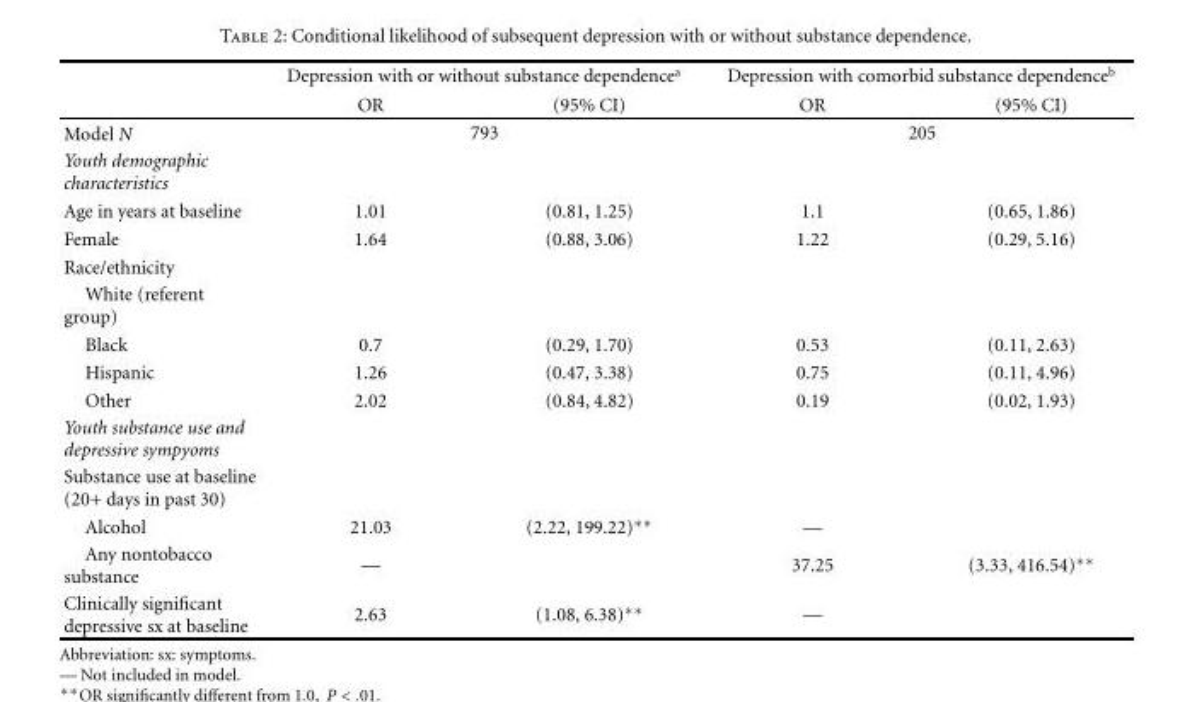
<table><thead><tr><td rowspan="2"></td><td colspan="2">Depression with or without substance dependence<sup>a</sup></td><td colspan="2">Depression with comorbid substance dependence<sup>b</sup></td></tr><tr><td>OR</td><td>(95% CI)</td><td>OR</td><td>(95% CI)</td></tr></thead><tbody><tr><td>Model N</td><td colspan="2">793</td><td colspan="2">205</td></tr><tr><td colspan="5">Youth demographic characteristics</td></tr><tr><td>Age in years at baseline</td><td>1.01</td><td>(0.81, 1.25)</td><td>1.1</td><td>(0.65, 1.86)</td></tr><tr><td>Female</td><td>1.64</td><td>(0.88, 3.06)</td><td>1.22</td><td>(0.29, 5.16)</td></tr><tr><td colspan="5">Race/ethnicity</td></tr><tr><td colspan="5">White (referent group)</td></tr><tr><td>Black</td><td>0.7</td><td>(0.29, 1.70)</td><td>0.53</td><td>(0.11, 2.63)</td></tr><tr><td>Hispanic</td><td>1.26</td><td>(0.47, 3.38)</td><td>0.75</td><td>(0.11, 4.96)</td></tr><tr><td>Other</td><td>2.02</td><td>(0.84, 4.82)</td><td>0.19</td><td>(0.02, 1.93)</td></tr><tr><td colspan="5">Youth substance use and depressive sympyoms</td></tr><tr><td colspan="5">Substance use at baseline (20+ days in past 30)</td></tr><tr><td>Alcohol</td><td>21.03</td><td>(2.22, 199.22)∗∗</td><td>—</td><td></td></tr><tr><td>Any nontobacco substance</td><td>—</td><td></td><td>37.25</td><td>(3.33, 416.54)∗∗</td></tr><tr><td>Clinically significant depressive sx at baseline</td><td>2.63</td><td>(1.08, 6.38)∗∗</td><td>—</td><td></td></tr></tbody></table>